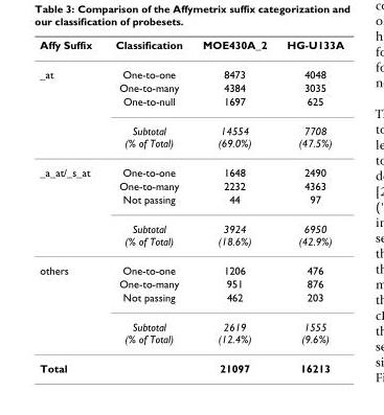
<table><thead><tr><td>Affy Suffix</td><td>Classification</td><td>MOE430A_2</td><td>HG-U133A</td></tr></thead><tbody><tr><td rowspan="4">_at</td><td>One-to-one</td><td>8473</td><td>4048</td></tr><tr><td>One-to-many</td><td>4384</td><td>3035</td></tr><tr><td>One-to-null</td><td>1697</td><td>625</td></tr><tr><td>Subtotal (% of Total)</td><td>14554 (69.0%)</td><td>7708 (47.5%)</td></tr><tr><td rowspan="4">_a_at/_s_at</td><td>One-to-one</td><td>1648</td><td>2490</td></tr><tr><td>One-to-many</td><td>2232</td><td>4363</td></tr><tr><td>Not passing</td><td>44</td><td>97</td></tr><tr><td>Subtotal (% of Total)</td><td>3924 (18.6%)</td><td>6950 (42.9%)</td></tr><tr><td rowspan="4">others</td><td>One-to-one</td><td>1206</td><td>476</td></tr><tr><td>One-to-many</td><td>951</td><td>876</td></tr><tr><td>Not passing</td><td>462</td><td>203</td></tr><tr><td>Subtotal (% of Total)</td><td>2619 (12.4%)</td><td>1555 (9.6%)</td></tr><tr><td colspan="2">Total</td><td>21097</td><td>16213</td></tr></tbody></table>